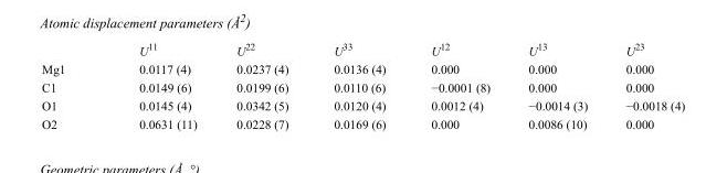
<table><thead><tr><td></td><td>U<sup>11</sup></td><td>U<sup>22</sup></td><td>U<sup>33</sup></td><td>U<sup>12</sup></td><td>U<sup>13</sup></td><td>U<sup>23</sup></td></tr></thead><tbody><tr><td>Mg1</td><td>0.0117 (4)</td><td>0.0237 (4)</td><td>0.0136 (4)</td><td>0.000</td><td>0.000</td><td>0.000</td></tr><tr><td>C1</td><td>0.0149 (6)</td><td>0.0199 (6)</td><td>0.0110 (6)</td><td>−0.0001 (8)</td><td>0.000</td><td>0.000</td></tr><tr><td>O1</td><td>0.0145 (4)</td><td>0.0342 (5)</td><td>0.0120 (4)</td><td>0.0012 (4)</td><td>−0.0014 (3)</td><td>−0.0018 (4)</td></tr><tr><td>O2</td><td>0.0631 (11)</td><td>0.0228 (7)</td><td>0.0169 (6)</td><td>0.000</td><td>0.0086 (10)</td><td>0.000</td></tr></tbody></table>